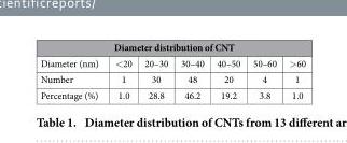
<table><thead><tr><td colspan="7">Diameter distribution of CNT</td></tr><tr><td>Diameter (nm)</td><td>&lt; 20</td><td>20–30</td><td>30–40</td><td>40–50</td><td>50–60</td><td>&gt; 60</td></tr></thead><tbody><tr><td>Number</td><td>1</td><td>30</td><td>48</td><td>20</td><td>4</td><td>1</td></tr><tr><td>Percentage (%)</td><td>1.0</td><td>28.8</td><td>46.2</td><td>19.2</td><td>3.8</td><td>1.0</td></tr></tbody></table>